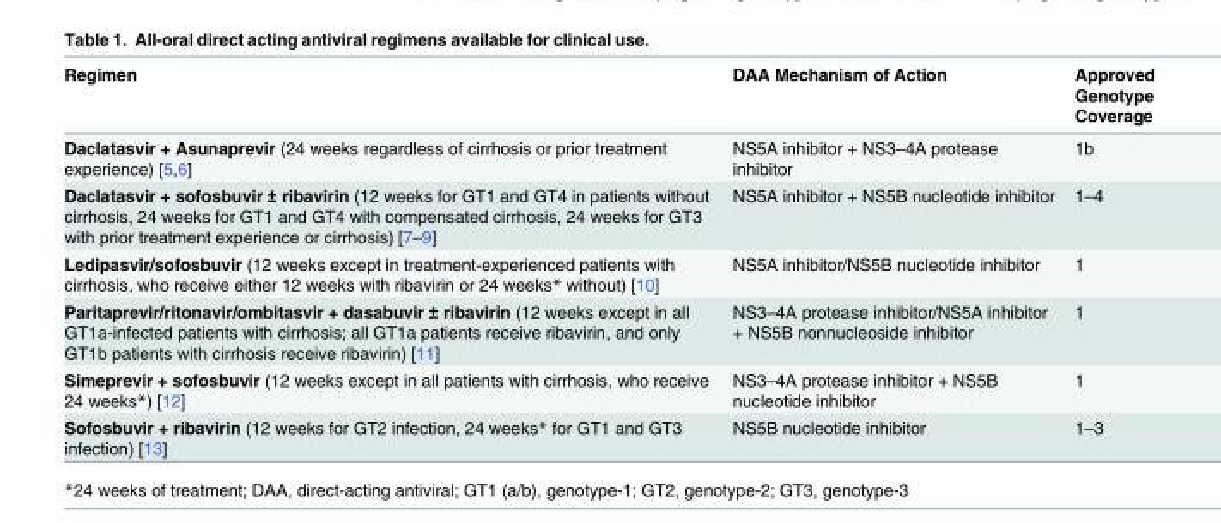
<table><thead><tr><td>Regimen</td><td>DAA Mechanism of Action</td><td>Approved Genotype Coverage</td></tr></thead><tbody><tr><td>Daclatasvir + Asunaprevir (24 weeks regardless of cirrhosis or prior treatment experience) [5,6]</td><td>NS5A inhibitor + NS3–4A protease inhibitor</td><td>1b</td></tr><tr><td>Daclatasvir + sofosbuvir ± ribavirin (12 weeks for GT1 and GT4 in patients without cirrhosis, 24 weeks for GT1 and GT4 with compensated cirrhosis, 24 weeks for GT3 with prior treatment experience or cirrhosis) [7–9]</td><td>NS5A inhibitor + NS5B nucleotide inhibitor</td><td>1–4</td></tr><tr><td>Ledipasvir/sofosbuvir (12 weeks except in treatment-experienced patients with cirrhosis, who receive either 12 weeks with ribavirin or 24 weeks* without) [10]</td><td>NS5A inhibitor/NS5B nucleotide inhibitor</td><td>1</td></tr><tr><td>Paritaprevir/ritonavir/ombitasvir + dasabuvir ± ribavirin (12 weeks except in all GT1a-infected patients with cirrhosis; all GT1a patients receive ribavirin, and only GT1b patients with cirrhosis receive ribavirin) [11]</td><td>NS3–4A protease inhibitor/NS5A inhibitor + NS5B nonnucleoside inhibitor</td><td>1</td></tr><tr><td>Simeprevir + sofosbuvir (12 weeks except in all patients with cirrhosis, who receive 24 weeks*) [12]</td><td>NS3–4A protease inhibitor + NS5B nucleotide inhibitor</td><td>1</td></tr><tr><td>Sofosbuvir + ribavirin (12 weeks for GT2 infection, 24 weeks* for GT1 and GT3 infection) [13]</td><td>NS5B nucleotide inhibitor</td><td>1–3</td></tr></tbody></table>